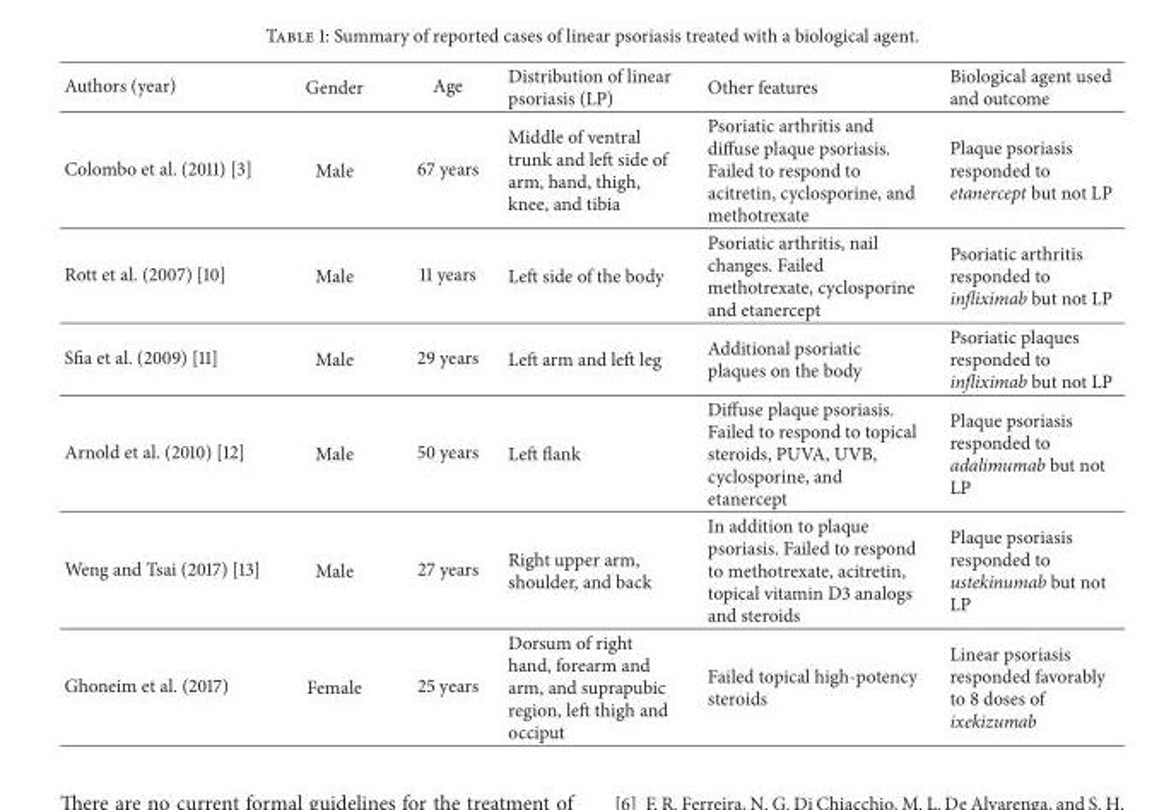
<table><thead><tr><td>Authors (year)</td><td>Gender</td><td>Age</td><td>Distribution of linear psoriasis (LP)</td><td>Other features</td><td>Biological agent used and outcome</td></tr></thead><tbody><tr><td>Colombo et al. (2011) [3]</td><td>Male</td><td>67 years</td><td>Middle of ventral trunk and left side of arm, hand, thigh, knee, and tibia</td><td>Psoriatic arthritis and diffuse plaque psoriasis. Failed to respond to acitretin, cyclosporine, and methotrexate</td><td>Plaque psoriasis responded to etanercept but not LP</td></tr><tr><td>Rott et al. (2007) [10]</td><td>Male</td><td>11 years</td><td>Left side of the body</td><td>Psoriatic arthritis, nail changes. Failed methotrexate, cyclosporine and etanercept</td><td>Psoriatic arthritis responded to infliximab but not LP</td></tr><tr><td>Sfia et al. (2009) [11]</td><td>Male</td><td>29 years</td><td>Left arm and left leg</td><td>Additional psoriatic plaques on the body</td><td>Psoriatic plaques responded to infliximab but not LP</td></tr><tr><td>Arnold et al. (2010) [12]</td><td>Male</td><td>50 years</td><td>Left flank</td><td>Diffuse plaque psoriasis. Failed to respond to topical steroids, PUVA, UVB, cyclosporine, and etanercept</td><td>Plaque psoriasis responded to adalimumab but not LP</td></tr><tr><td>Weng and Tsai (2017) [13]</td><td>Male</td><td>27 years</td><td>Right upper arm, shoulder, and back</td><td>In addition to plaque psoriasis. Failed to respond to methotrexate, acitretin, topical vitamin D3 analogs and steroids</td><td>Plaque psoriasis responded to ustekinumab but not LP</td></tr><tr><td>Ghoneim et al. (2017)</td><td>Female</td><td>25 years</td><td>Dorsum of right hand, forearm and arm, and suprapubic region, left thigh and occiput</td><td>Failed topical high-potency steroids</td><td>Linear psoriasis responded favorably to 8 doses of ixekizumab</td></tr></tbody></table>